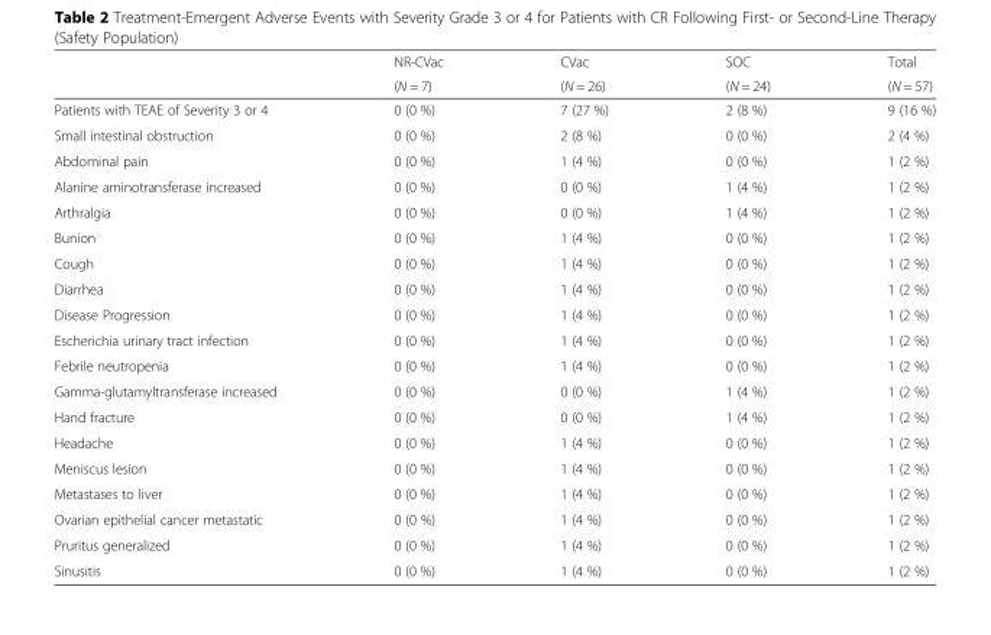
<table><thead><tr><td rowspan="2"></td><td rowspan="2">NR-CVac (N = 7)</td><td rowspan="2">CVac (N = 26)</td><td rowspan="2">SOC (N = 24)</td><td rowspan="2">Total (N = 57)</td></tr><tr></tr></thead><tbody><tr><td>Patients with TEAE of Severity 3 or 4</td><td>0 (0 %)</td><td>7 (27 %)</td><td>2 (8 %)</td><td>9 (16 %)</td></tr><tr><td>Small intestinal obstruction</td><td>0 (0 %)</td><td>2 (8 %)</td><td>0 (0 %)</td><td>2 (4 %)</td></tr><tr><td>Abdominal pain</td><td>0 (0 %)</td><td>1 (4 %)</td><td>0 (0 %)</td><td>1 (2 %)</td></tr><tr><td>Alanine aminotransferase increased</td><td>0 (0 %)</td><td>0 (0 %)</td><td>1 (4 %)</td><td>1 (2 %)</td></tr><tr><td>Arthralgia</td><td>0 (0 %)</td><td>0 (0 %)</td><td>1 (4 %)</td><td>1 (2 %)</td></tr><tr><td>Bunion</td><td>0 (0 %)</td><td>1 (4 %)</td><td>0 (0 %)</td><td>1 (2 %)</td></tr><tr><td>Cough</td><td>0 (0 %)</td><td>1 (4 %)</td><td>0 (0 %)</td><td>1 (2 %)</td></tr><tr><td>Diarrhea</td><td>0 (0 %)</td><td>1 (4 %)</td><td>0 (0 %)</td><td>1 (2 %)</td></tr><tr><td>Disease Progression</td><td>0 (0 %)</td><td>1 (4 %)</td><td>0 (0 %)</td><td>1 (2 %)</td></tr><tr><td>Escherichia urinary tract infection</td><td>0 (0 %)</td><td>1 (4 %)</td><td>0 (0 %)</td><td>1 (2 %)</td></tr><tr><td>Febrile neutropenia</td><td>0 (0 %)</td><td>1 (4 %)</td><td>0 (0 %)</td><td>1 (2 %)</td></tr><tr><td>Gamma-glutamyltransferase increased</td><td>0 (0 %)</td><td>0 (0 %)</td><td>1 (4 %)</td><td>1 (2 %)</td></tr><tr><td>Hand fracture</td><td>0 (0 %)</td><td>0 (0 %)</td><td>1 (4 %)</td><td>1 (2 %)</td></tr><tr><td>Headache</td><td>0 (0 %)</td><td>1 (4 %)</td><td>0 (0 %)</td><td>1 (2 %)</td></tr><tr><td>Meniscus lesion</td><td>0 (0 %)</td><td>1 (4 %)</td><td>0 (0 %)</td><td>1 (2 %)</td></tr><tr><td>Metastases to liver</td><td>0 (0 %)</td><td>1 (4 %)</td><td>0 (0 %)</td><td>1 (2 %)</td></tr><tr><td>Ovarian epithelial cancer metastatic</td><td>0 (0 %)</td><td>1 (4 %)</td><td>0 (0 %)</td><td>1 (2 %)</td></tr><tr><td>Pruritus generalized</td><td>0 (0 %)</td><td>1 (4 %)</td><td>0 (0 %)</td><td>1 (2 %)</td></tr><tr><td>Sinusitis</td><td>0 (0 %)</td><td>1 (4 %)</td><td>0 (0 %)</td><td>1 (2 %)</td></tr></tbody></table>